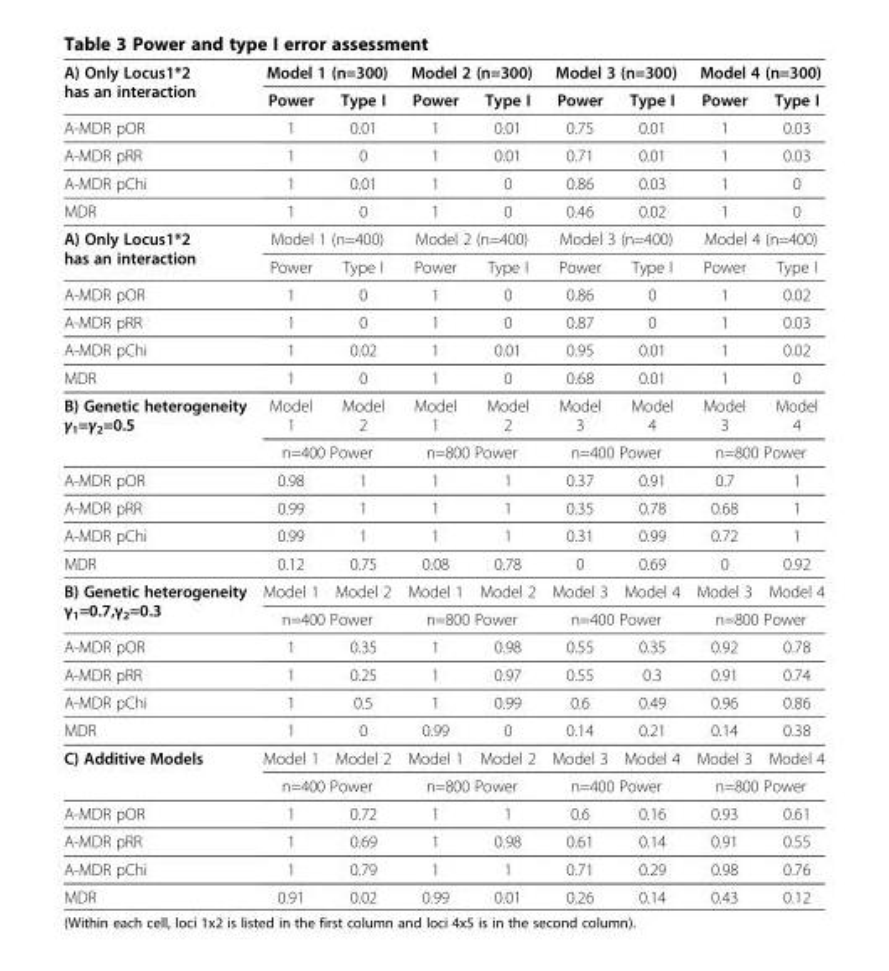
<table><thead><tr><td rowspan="2">A) Only Locus1*2 has an interaction</td><td colspan="2">Model 1 (n=300)</td><td colspan="2">Model 2 (n=300)</td><td colspan="2">Model 3 (n=300)</td><td colspan="2">Model 4 (n=300)</td></tr><tr><td>Power</td><td>Type I</td><td>Power</td><td>Type I</td><td>Power</td><td>Type I</td><td>Power</td><td>Type I</td></tr></thead><tbody><tr><td>A-MDR pOR</td><td>1</td><td>0.01</td><td>1</td><td>0.01</td><td>0.75</td><td>0.01</td><td>1</td><td>0.03</td></tr><tr><td>A-MDR pRR</td><td>1</td><td>0</td><td>1</td><td>0.01</td><td>0.71</td><td>0.01</td><td>1</td><td>0.03</td></tr><tr><td>A-MDR pChi</td><td>1</td><td>0.01</td><td>1</td><td>0</td><td>0.86</td><td>0.03</td><td>1</td><td>0</td></tr><tr><td>MDR</td><td>1</td><td>0</td><td>1</td><td>0</td><td>0.46</td><td>0.02</td><td>1</td><td>0</td></tr><tr><td rowspan="2">A) Only Locus1*2 has an interaction</td><td colspan="2">Model 1 (n=400)</td><td colspan="2">Model 2 (n=400)</td><td colspan="2">Model 3 (n=400)</td><td colspan="2">Model 4 (n=400)</td></tr><tr><td>Power</td><td>Type I</td><td>Power</td><td>Type I</td><td>Power</td><td>Type I</td><td>Power</td><td>Type I</td></tr><tr><td>A-MDR pOR</td><td>1</td><td>0</td><td>1</td><td>0</td><td>0.86</td><td>0</td><td>1</td><td>0.02</td></tr><tr><td>A-MDR pRR</td><td>1</td><td>0</td><td>1</td><td>0</td><td>0.87</td><td>0</td><td>1</td><td>0.03</td></tr><tr><td>A-MDR pChi</td><td>1</td><td>0.02</td><td>1</td><td>0.01</td><td>0.95</td><td>0.01</td><td>1</td><td>0.02</td></tr><tr><td>MDR</td><td>1</td><td>0</td><td>1</td><td>0</td><td>0.68</td><td>0.01</td><td>1</td><td>0</td></tr><tr><td rowspan="2">B) Genetic heterogeneity γ<sub>1</sub>=γ<sub>2</sub>=0.5</td><td>Model 1</td><td>Model 2</td><td>Model 1</td><td>Model 2</td><td>Model 3</td><td>Model 4</td><td>Model 3</td><td>Model 4</td></tr><tr><td colspan="2">n=400 Power</td><td colspan="2">n=800 Power</td><td colspan="2">n=400 Power</td><td colspan="2">n=800 Power</td></tr><tr><td>A-MDR pOR</td><td>0.98</td><td>1</td><td>1</td><td>1</td><td>0.37</td><td>0.91</td><td>0.7</td><td>1</td></tr><tr><td>A-MDR pRR</td><td>0.99</td><td>1</td><td>1</td><td>1</td><td>0.35</td><td>0.78</td><td>0.68</td><td>1</td></tr><tr><td>A-MDR pChi</td><td>0.99</td><td>1</td><td>1</td><td>1</td><td>0.31</td><td>0.99</td><td>0.72</td><td>1</td></tr><tr><td>MDR</td><td>0.12</td><td>0.75</td><td>0.08</td><td>0.78</td><td>0</td><td>0.69</td><td>0</td><td>0.92</td></tr><tr><td rowspan="2">B) Genetic heterogeneity γ<sub>1</sub>=0.7,γ<sub>2</sub>=0.3</td><td>Model 1</td><td>Model 2</td><td>Model 1</td><td>Model 2</td><td>Model 3</td><td>Model 4</td><td>Model 3</td><td>Model 4</td></tr><tr><td colspan="2">n=400 Power</td><td colspan="2">n=800 Power</td><td colspan="2">n=400 Power</td><td colspan="2">n=800 Power</td></tr><tr><td>A-MDR pOR</td><td>1</td><td>0.35</td><td>1</td><td>0.98</td><td>0.55</td><td>0.35</td><td>0.92</td><td>0.78</td></tr><tr><td>A-MDR pRR</td><td>1</td><td>0.25</td><td>1</td><td>0.97</td><td>0.55</td><td>0.3</td><td>0.91</td><td>0.74</td></tr><tr><td>A-MDR pChi</td><td>1</td><td>0.5</td><td>1</td><td>0.99</td><td>0.6</td><td>0.49</td><td>0.96</td><td>0.86</td></tr><tr><td>MDR</td><td>1</td><td>0</td><td>0.99</td><td>0</td><td>0.14</td><td>0.21</td><td>0.14</td><td>0.38</td></tr><tr><td rowspan="2">C) Additive Models</td><td>Model 1</td><td>Model 2</td><td>Model 1</td><td>Model 2</td><td>Model 3</td><td>Model 4</td><td>Model 3</td><td>Model 4</td></tr><tr><td colspan="2">n=400 Power</td><td colspan="2">n=800 Power</td><td colspan="2">n=400 Power</td><td colspan="2">n=800 Power</td></tr><tr><td>A-MDR pOR</td><td>1</td><td>0.72</td><td>1</td><td>1</td><td>0.6</td><td>0.16</td><td>0.93</td><td>0.61</td></tr><tr><td>A-MDR pRR</td><td>1</td><td>0.69</td><td>1</td><td>0.98</td><td>0.61</td><td>0.14</td><td>0.91</td><td>0.55</td></tr><tr><td>A-MDR pChi</td><td>1</td><td>0.79</td><td>1</td><td>1</td><td>0.71</td><td>0.29</td><td>0.98</td><td>0.76</td></tr><tr><td>MDR</td><td>0.91</td><td>0.02</td><td>0.99</td><td>0.01</td><td>0.26</td><td>0.14</td><td>0.43</td><td>0.12</td></tr></tbody></table>